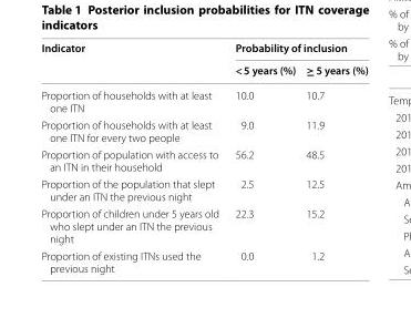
<table><thead><tr><td rowspan="2">Indicator</td><td colspan="2">Probability of inclusion</td></tr><tr><td>&lt; 5 years (%)</td><td>≥ 5 years (%)</td></tr></thead><tbody><tr><td>Proportion of households with at least one ITN</td><td>10.0</td><td>10.7</td></tr><tr><td>Proportion of households with at least one ITN for every two people</td><td>9.0</td><td>11.9</td></tr><tr><td>Proportion of population with access to an ITN in their household</td><td>56.2</td><td>48.5</td></tr><tr><td>Proportion of the population that slept under an ITN the previous night</td><td>2.5</td><td>12.5</td></tr><tr><td>Proportion of children under 5 years old who slept under an ITN the previous night</td><td>22.3</td><td>15.2</td></tr><tr><td>Proportion of existing ITNs used the previous night</td><td>0.0</td><td>1.2</td></tr></tbody></table>